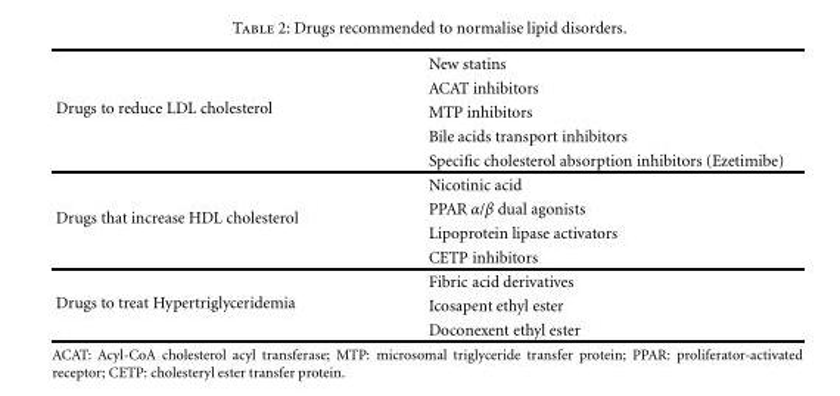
<table><tbody><tr><td rowspan="5">Drugs to reduce LDL cholesterol</td><td>New statins</td></tr><tr><td>ACAT inhibitors</td></tr><tr><td>MTP inhibitors</td></tr><tr><td>Bile acids transport inhibitors</td></tr><tr><td>Specific cholesterol absorption inhibitors (Ezetimibe)</td></tr><tr><td rowspan="4">Drugs that increase HDL cholesterol</td><td>Nicotinic acid</td></tr><tr><td>PPAR α/β dual agonists</td></tr><tr><td>Lipoprotein lipase activators</td></tr><tr><td>CETP inhibitors</td></tr><tr><td rowspan="3">Drugs to treat Hypertriglyceridemia</td><td>Fibric acid derivatives</td></tr><tr><td>Icosapent ethyl ester</td></tr><tr><td>Doconexent ethyl ester</td></tr></tbody></table>